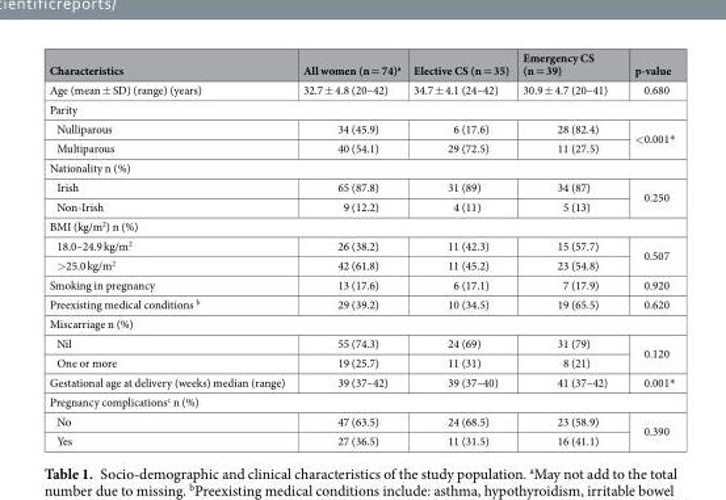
<table><thead><tr><td>Characteristics</td><td>All women (n = 74)<sup>a</sup></td><td>Elective CS (n = 35)</td><td>Emergency CS (n = 39)</td><td>p-value</td></tr></thead><tbody><tr><td>Age (mean ± SD) (range) (years)</td><td>32.7 ± 4.8 (20–42)</td><td>34.7 ± 4.1 (24–42)</td><td>30.9 ± 4.7 (20–41)</td><td>0.680</td></tr><tr><td colspan="5">Parity</td></tr><tr><td>Nulliparous</td><td>34 (45.9)</td><td>6 (17.6)</td><td>28 (82.4)</td><td rowspan="2">&lt;0.001*</td></tr><tr><td>Multiparous</td><td>40 (54.1)</td><td>29 (72.5)</td><td>11 (27.5)</td></tr><tr><td colspan="5">Nationality n (%)</td></tr><tr><td>Irish</td><td>65 (87.8)</td><td>31 (89)</td><td>34 (87)</td><td rowspan="2">0.250</td></tr><tr><td>Non-Irish</td><td>9 (12.2)</td><td>4 (11)</td><td>5 (13)</td></tr><tr><td colspan="5">BMI (kg/m<sup>2</sup>) n (%)</td></tr><tr><td>18.0–24.9 kg/m<sup>2</sup></td><td>26 (38.2)</td><td>11 (42.3)</td><td>15 (57.7)</td><td rowspan="2">0.507</td></tr><tr><td>&gt;25.0 kg/m<sup>2</sup></td><td>42 (61.8)</td><td>11 (45.2)</td><td>23 (54.8)</td></tr><tr><td>Smoking in pregnancy</td><td>13 (17.6)</td><td>6 (17.1)</td><td>7 (17.9)</td><td>0.920</td></tr><tr><td>Preexisting medical conditions <sup>b</sup></td><td>29 (39.2)</td><td>10 (34.5)</td><td>19 (65.5)</td><td>0.620</td></tr><tr><td colspan="5">Miscarriage n (%)</td></tr><tr><td>Nil</td><td>55 (74.3)</td><td>24 (69)</td><td>31 (79)</td><td rowspan="2">0.120</td></tr><tr><td>One or more</td><td>19 (25.7)</td><td>11 (31)</td><td>8 (21)</td></tr><tr><td>Gestational age at delivery (weeks) median (range)</td><td>39 (37–42)</td><td>39 (37–40)</td><td>41 (37–42)</td><td>0.001*</td></tr><tr><td colspan="5">Pregnancy complications<sup>c</sup> n (%)</td></tr><tr><td>No</td><td>47 (63.5)</td><td>24 (68.5)</td><td>23 (58.9)</td><td rowspan="2">0.390</td></tr><tr><td>Yes</td><td>27 (36.5)</td><td>11 (31.5)</td><td>16 (41.1)</td></tr></tbody></table>